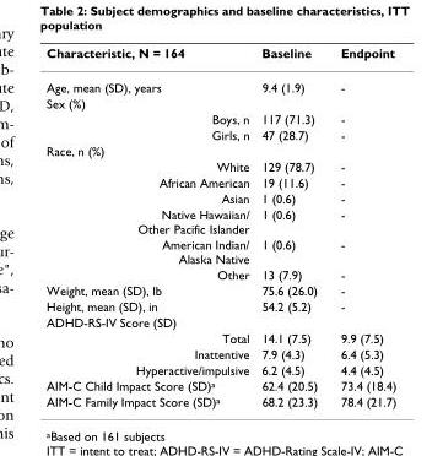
<table><thead><tr><td>Characteristic, N = 164</td><td>Baseline</td><td>Endpoint</td></tr></thead><tbody><tr><td>Age, mean (SD), years</td><td>9.4 (1.9)</td><td>-</td></tr><tr><td colspan="3">Sex (%)</td></tr><tr><td>Boys, n</td><td>117 (71.3)</td><td>-</td></tr><tr><td>Girls, n</td><td>47 (28.7)</td><td>-</td></tr><tr><td colspan="3">Race, n (%)</td></tr><tr><td>White</td><td>129 (78.7)</td><td>-</td></tr><tr><td>African American</td><td>19 (11.6)</td><td>-</td></tr><tr><td>Asian</td><td>1 (0.6)</td><td>-</td></tr><tr><td>Native Hawaiian/ Other Pacific Islander</td><td>1 (0.6)</td><td>-</td></tr><tr><td>American Indian/ Alaska Native</td><td>1 (0.6)</td><td>-</td></tr><tr><td>Other</td><td>13 (7.9)</td><td>-</td></tr><tr><td>Weight, mean (SD), lb</td><td>75.6 (26.0)</td><td>-</td></tr><tr><td>Height, mean (SD), in</td><td>54.2 (5.2)</td><td>-</td></tr><tr><td colspan="3">ADHD-RS-IV Score (SD)</td></tr><tr><td>Total</td><td>14.1 (7.5)</td><td>9.9 (7.5)</td></tr><tr><td>Inattentive</td><td>7.9 (4.3)</td><td>6.4 (5.3)</td></tr><tr><td>Hyperactive/impulsive</td><td>6.2 (4.5)</td><td>4.4 (4.5)</td></tr><tr><td>AIM-C Child Impact Score (SD)<sup>a</sup></td><td>62.4 (20.5)</td><td>73.4 (18.4)</td></tr><tr><td>AIM-C Family Impact Score (SD)<sup>a</sup></td><td>68.2 (23.3)</td><td>78.4 (21.7)</td></tr></tbody></table>